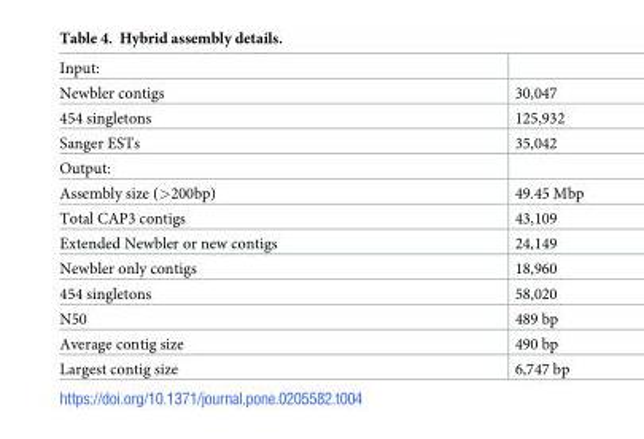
<table><tbody><tr><td colspan="2">Input:</td></tr><tr><td>Newbler contigs</td><td>30,047</td></tr><tr><td>454 singletons</td><td>125,932</td></tr><tr><td>Sanger ESTs</td><td>35,042</td></tr><tr><td colspan="2">Output:</td></tr><tr><td>Assembly size (&gt;200bp)</td><td>49.45 Mbp</td></tr><tr><td>Total CAP3 contigs</td><td>43,109</td></tr><tr><td>Extended Newbler or new contigs</td><td>24,149</td></tr><tr><td>Newbler only contigs</td><td>18,960</td></tr><tr><td>454 singletons</td><td>58,020</td></tr><tr><td>N50</td><td>489 bp</td></tr><tr><td>Average contig size</td><td>490 bp</td></tr><tr><td>Largest contig size</td><td>6,747 bp</td></tr></tbody></table>